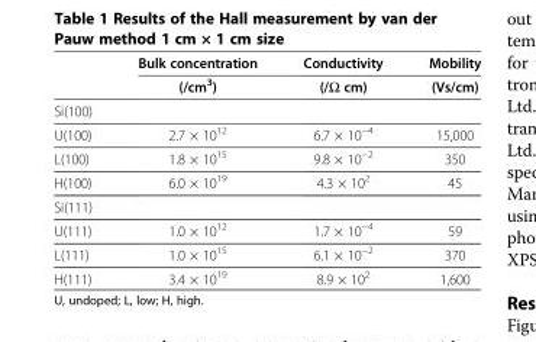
<table><thead><tr><td rowspan="2"></td><td rowspan="2">Bulk concentration (/cm<sup>3</sup>)</td><td rowspan="2">Conductivity (/Ω cm)</td><td rowspan="2">Mobility (Vs/cm)</td></tr><tr></tr></thead><tbody><tr><td colspan="4">Si(100)</td></tr><tr><td>U(100)</td><td>2.7 × 10<sup>12</sup></td><td>6.7 × 10<sup>−4</sup></td><td>15,000</td></tr><tr><td>L(100)</td><td>1.8 × 10<sup>15</sup></td><td>9.8 × 10<sup>−2</sup></td><td>350</td></tr><tr><td>H(100)</td><td>6.0 × 10<sup>19</sup></td><td>4.3 × 10<sup>2</sup></td><td>45</td></tr><tr><td colspan="4">Si(111)</td></tr><tr><td>U(111)</td><td>1.0 × 10<sup>12</sup></td><td>1.7 × 10<sup>−4</sup></td><td>59</td></tr><tr><td>L(111)</td><td>1.0 × 10<sup>15</sup></td><td>6.1 × 10<sup>−2</sup></td><td>370</td></tr><tr><td>H(111)</td><td>3.4 × 10<sup>19</sup></td><td>8.9 × 10<sup>2</sup></td><td>1,600</td></tr></tbody></table>